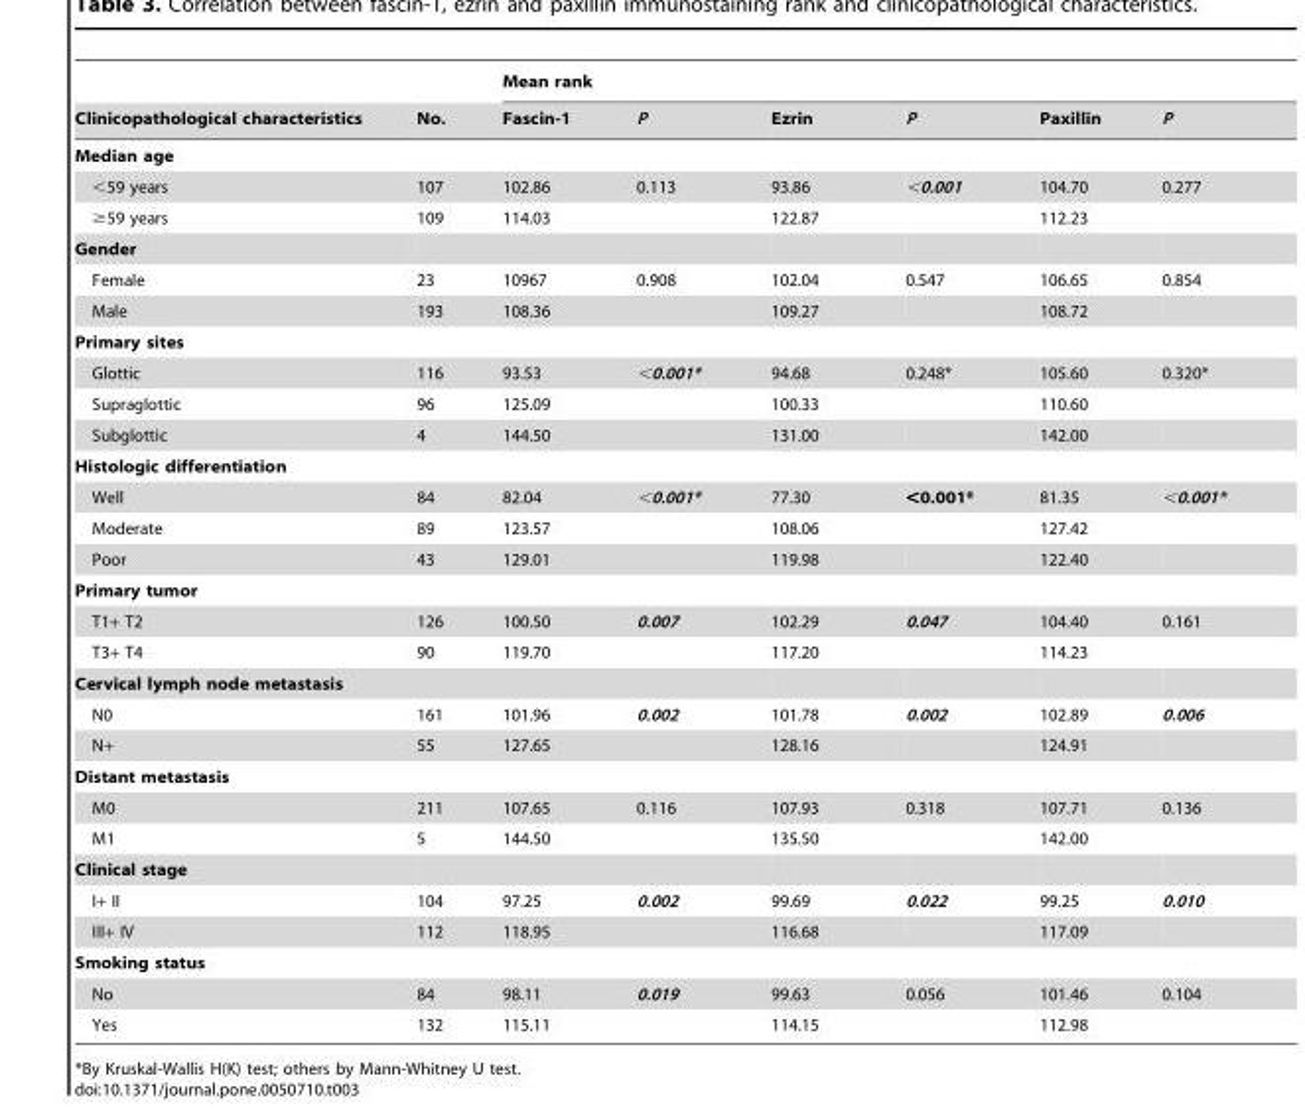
<table><thead><tr><td rowspan="2">Clinicopathological characteristics</td><td rowspan="2">No.</td><td colspan="6">Mean rank</td></tr><tr><td>Fascin-1</td><td>P</td><td>Ezrin</td><td>P</td><td>Paxillin</td><td>P</td></tr></thead><tbody><tr><td colspan="8">Median age</td></tr><tr><td>&lt;59 years</td><td>107</td><td>102.86</td><td>0.113</td><td>93.86</td><td>&lt;0.001</td><td>104.70</td><td>0.277</td></tr><tr><td>≥59 years</td><td>109</td><td>114.03</td><td></td><td>122.87</td><td></td><td>112.23</td><td></td></tr><tr><td colspan="8">Gender</td></tr><tr><td>Female</td><td>23</td><td>10967</td><td>0.908</td><td>102.04</td><td>0.547</td><td>106.65</td><td>0.854</td></tr><tr><td>Male</td><td>193</td><td>108.36</td><td></td><td>109.27</td><td></td><td>108.72</td><td></td></tr><tr><td colspan="8">Primary sites</td></tr><tr><td>Glottic</td><td>116</td><td>93.53</td><td>&lt;0.001*</td><td>94.68</td><td>0.248*</td><td>105.60</td><td>0.320*</td></tr><tr><td>Supraglottic</td><td>96</td><td>125.09</td><td></td><td>100.33</td><td></td><td>110.60</td><td></td></tr><tr><td>Subglottic</td><td>4</td><td>144.50</td><td></td><td>131.00</td><td></td><td>142.00</td><td></td></tr><tr><td colspan="8">Histologic differentiation</td></tr><tr><td>Well</td><td>84</td><td>82.04</td><td>&lt;0.001*</td><td>77.30</td><td>&lt;0.001*</td><td>81.35</td><td>&lt;0.001*</td></tr><tr><td>Moderate</td><td>89</td><td>123.57</td><td></td><td>108.06</td><td></td><td>127.42</td><td></td></tr><tr><td>Poor</td><td>43</td><td>129.01</td><td></td><td>119.98</td><td></td><td>122.40</td><td></td></tr><tr><td colspan="8">Primary tumor</td></tr><tr><td>T1+ T2</td><td>126</td><td>100.50</td><td>0.007</td><td>102.29</td><td>0.047</td><td>104.40</td><td>0.161</td></tr><tr><td>T3+ T4</td><td>90</td><td>119.70</td><td></td><td>117.20</td><td></td><td>114.23</td><td></td></tr><tr><td colspan="8">Cervical lymph node metastasis</td></tr><tr><td>N0</td><td>161</td><td>101.96</td><td>0.002</td><td>101.78</td><td>0.002</td><td>102.89</td><td>0.006</td></tr><tr><td>N+</td><td>55</td><td>127.65</td><td></td><td>128.16</td><td></td><td>124.91</td><td></td></tr><tr><td colspan="8">Distant metastasis</td></tr><tr><td>M0</td><td>211</td><td>107.65</td><td>0.116</td><td>107.93</td><td>0.318</td><td>107.71</td><td>0.136</td></tr><tr><td>M1</td><td>5</td><td>144.50</td><td></td><td>135.50</td><td></td><td>142.00</td><td></td></tr><tr><td colspan="8">Clinical stage</td></tr><tr><td>I+ II</td><td>104</td><td>97.25</td><td>0.002</td><td>99.69</td><td>0.022</td><td>99.25</td><td>0.010</td></tr><tr><td>III+ IV</td><td>112</td><td>118.95</td><td></td><td>116.68</td><td></td><td>117.09</td><td></td></tr><tr><td colspan="8">Smoking status</td></tr><tr><td>No</td><td>84</td><td>98.11</td><td>0.019</td><td>99.63</td><td>0.056</td><td>101.46</td><td>0.104</td></tr><tr><td>Yes</td><td>132</td><td>115.11</td><td></td><td>114.15</td><td></td><td>112.98</td><td></td></tr></tbody></table>